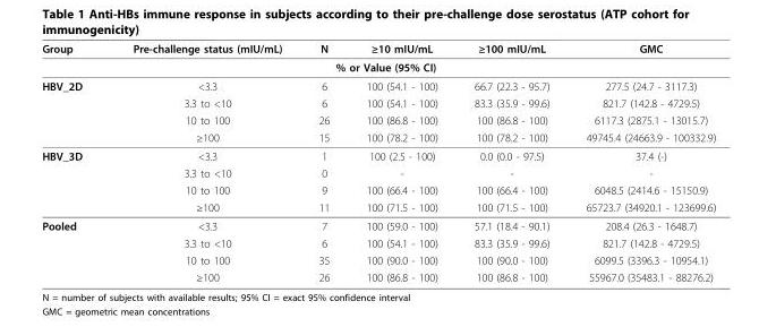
<table><thead><tr><td>Group</td><td>Pre-challenge status (mIU/mL)</td><td>N</td><td>≥10 mIU/mL</td><td>≥100 mIU/mL</td><td>GMC</td></tr></thead><tbody><tr><td colspan="6">% or Value (95% CI)</td></tr><tr><td rowspan="4">HBV_2D</td><td>&lt;3.3</td><td>6</td><td>100 (54.1 - 100)</td><td>66.7 (22.3 - 95.7)</td><td>277.5 (24.7 - 3117.3)</td></tr><tr><td>3.3 to &lt;10</td><td>6</td><td>100 (54.1 - 100)</td><td>83.3 (35.9 - 99.6)</td><td>821.7 (142.8 - 4729.5)</td></tr><tr><td>10 to 100</td><td>26</td><td>100 (86.8 - 100)</td><td>100 (86.8 - 100)</td><td>6117.3 (2875.1 - 13015.7)</td></tr><tr><td>≥100</td><td>15</td><td>100 (78.2 - 100)</td><td>100 (78.2 - 100)</td><td>49745.4 (24663.9 - 100332.9)</td></tr><tr><td rowspan="4">HBV_3D</td><td>&lt;3.3</td><td>1</td><td>100 (2.5 - 100)</td><td>0.0 (0.0 - 97.5)</td><td>37.4 (-)</td></tr><tr><td>3.3 to &lt;10</td><td>0</td><td>-</td><td>-</td><td>-</td></tr><tr><td>10 to 100</td><td>9</td><td>100 (66.4 - 100)</td><td>100 (66.4 - 100)</td><td>6048.5 (2414.6 - 15150.9)</td></tr><tr><td>≥100</td><td>11</td><td>100 (71.5 - 100)</td><td>100 (71.5 - 100)</td><td>65723.7 (34920.1 - 123699.6)</td></tr><tr><td rowspan="4">Pooled</td><td>&lt;3.3</td><td>7</td><td>100 (59.0 - 100)</td><td>57.1 (18.4 - 90.1)</td><td>208.4 (26.3 - 1648.7)</td></tr><tr><td>3.3 to &lt;10</td><td>6</td><td>100 (54.1 - 100)</td><td>83.3 (35.9 - 99.6)</td><td>821.7 (142.8 - 4729.5)</td></tr><tr><td>10 to 100</td><td>35</td><td>100 (90.0 - 100)</td><td>100 (90.0 - 100)</td><td>6099.5 (3396.3 - 10954.1)</td></tr><tr><td>≥100</td><td>26</td><td>100 (86.8 - 100)</td><td>100 (86.8 - 100)</td><td>55967.0 (35483.1 - 88276.2)</td></tr></tbody></table>